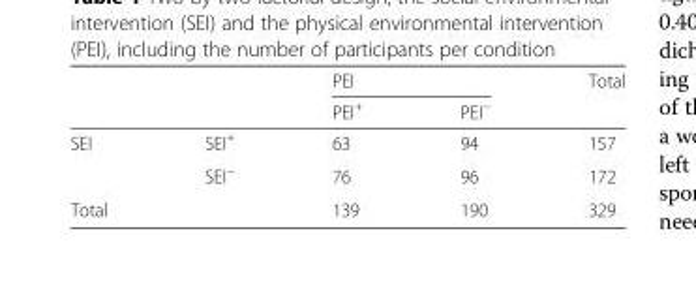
<table><thead><tr><td rowspan="2"></td><td rowspan="2"></td><td colspan="2">PEI</td><td rowspan="2">Total</td></tr><tr><td>PEI<sup>+</sup></td><td>PEI<sup>−</sup></td></tr></thead><tbody><tr><td rowspan="2">SEI</td><td>SEI<sup>+</sup></td><td>63</td><td>94</td><td>157</td></tr><tr><td>SEI<sup>−</sup></td><td>76</td><td>96</td><td>172</td></tr><tr><td>Total</td><td></td><td>139</td><td>190</td><td>329</td></tr></tbody></table>